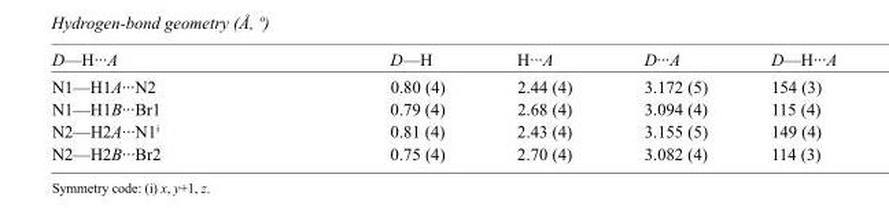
<table><tbody><tr><td>D—H···A</td><td>D—H</td><td>H···A</td><td>D···A</td><td>D—H···A</td></tr><tr><td>N1—H1A···N2</td><td>0.80 (4)</td><td>2.44 (4)</td><td>3.172 (5)</td><td>154 (3)</td></tr><tr><td>N1—H1B···Br1</td><td>0.79 (4)</td><td>2.68 (4)</td><td>3.094 (4)</td><td>115 (4)</td></tr><tr><td>N2—H2A···N1<sup>i</sup></td><td>0.81 (4)</td><td>2.43 (4)</td><td>3.155 (5)</td><td>149 (4)</td></tr><tr><td>N2—H2B···Br2</td><td>0.75 (4)</td><td>2.70 (4)</td><td>3.082 (4)</td><td>114 (3)</td></tr></tbody></table>